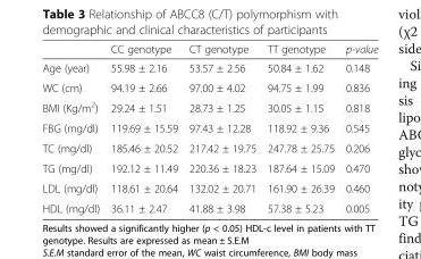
<table><thead><tr><td></td><td>CC genotype</td><td>CT genotype</td><td>TT genotype</td><td>p-value</td></tr></thead><tbody><tr><td>Age (year)</td><td>55.98 ± 2.16</td><td>53.57 ± 2.56</td><td>50.84 ± 1.62</td><td>0.148</td></tr><tr><td>WC (cm)</td><td>94.19 ± 2.66</td><td>97.00 ± 4.02</td><td>94.75 ± 1.99</td><td>0.836</td></tr><tr><td>BMI (Kg/m<sup>2</sup>)</td><td>29.24 ± 1.51</td><td>28.73 ± 1.25</td><td>30.05 ± 1.15</td><td>0.818</td></tr><tr><td>FBG (mg/dl)</td><td>119.69 ± 15.59</td><td>97.43 ± 12.28</td><td>118.92 ± 9.36</td><td>0.545</td></tr><tr><td>TC (mg/dl)</td><td>185.46 ± 20.52</td><td>217.42 ± 19.75</td><td>247.78 ± 25.75</td><td>0.206</td></tr><tr><td>TG (mg/dl)</td><td>192.12 ± 11.49</td><td>220.36 ± 18.23</td><td>187.64 ± 15.09</td><td>0.470</td></tr><tr><td>LDL (mg/dl)</td><td>118.61 ± 20.64</td><td>132.02 ± 20.71</td><td>161.90 ± 26.39</td><td>0.460</td></tr><tr><td>HDL (mg/dl)</td><td>36.11 ± 2.47</td><td>41.88 ± 3.98</td><td>57.38 ± 5.23</td><td>0.005</td></tr></tbody></table>